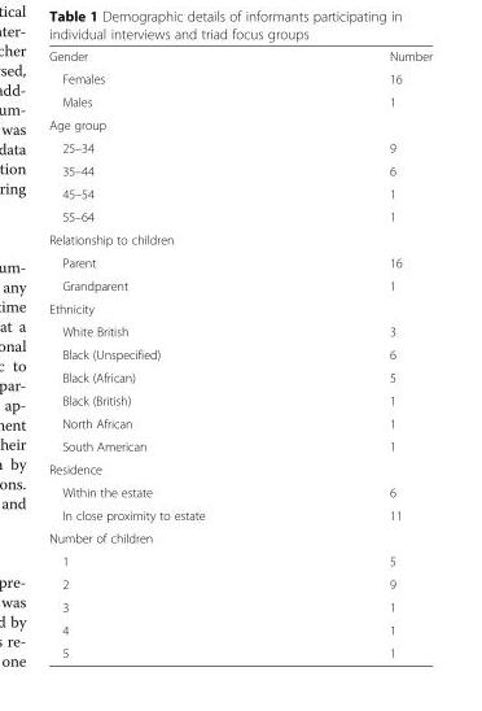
<table><tbody><tr><td>Gender</td><td>Number</td></tr><tr><td>Females</td><td>16</td></tr><tr><td>Males</td><td>1</td></tr><tr><td colspan="2">Age group</td></tr><tr><td>25–34</td><td>9</td></tr><tr><td>35–44</td><td>6</td></tr><tr><td>45–54</td><td>1</td></tr><tr><td>55–64</td><td>1</td></tr><tr><td colspan="2">Relationship to children</td></tr><tr><td>Parent</td><td>16</td></tr><tr><td>Grandparent</td><td>1</td></tr><tr><td colspan="2">Ethnicity</td></tr><tr><td>White British</td><td>3</td></tr><tr><td>Black (Unspecified)</td><td>6</td></tr><tr><td>Black (African)</td><td>5</td></tr><tr><td>Black (British)</td><td>1</td></tr><tr><td>North African</td><td>1</td></tr><tr><td>South American</td><td>1</td></tr><tr><td colspan="2">Residence</td></tr><tr><td>Within the estate</td><td>6</td></tr><tr><td>In close proximity to estate</td><td>11</td></tr><tr><td colspan="2">Number of children</td></tr><tr><td>1</td><td>5</td></tr><tr><td>2</td><td>9</td></tr><tr><td>3</td><td>1</td></tr><tr><td>4</td><td>1</td></tr><tr><td>5</td><td>1</td></tr></tbody></table>